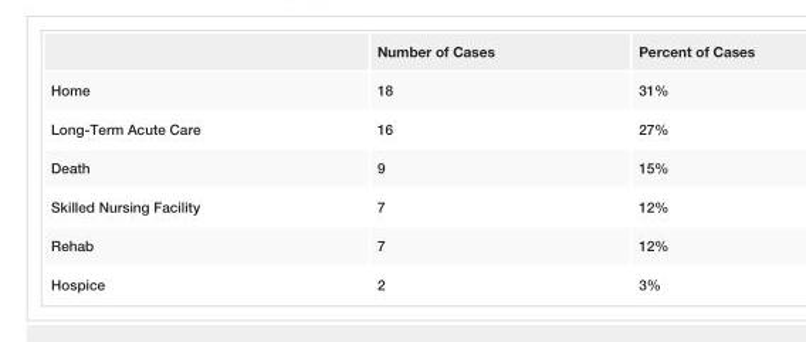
<table><thead><tr><td></td><td>Number of Cases</td><td>Percent of Cases</td></tr></thead><tbody><tr><td>Home</td><td>18</td><td>31%</td></tr><tr><td>Long-Term Acute Care</td><td>16</td><td>27%</td></tr><tr><td>Death</td><td>9</td><td>15%</td></tr><tr><td>Skilled Nursing Facility</td><td>7</td><td>12%</td></tr><tr><td>Rehab</td><td>7</td><td>12%</td></tr><tr><td>Hospice</td><td>2</td><td>3%</td></tr></tbody></table>